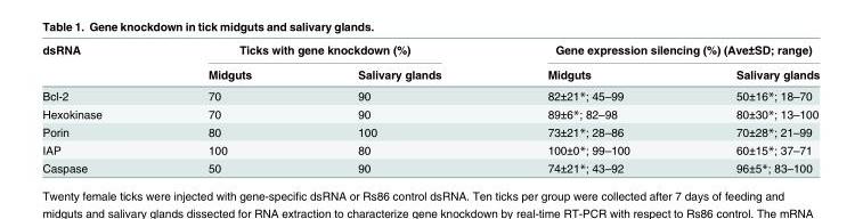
<table><thead><tr><td rowspan="2">dsRNA</td><td colspan="2">Ticks with gene knockdown (%)</td><td colspan="2">Gene expression silencing (%) (Ave±SD; range)</td></tr><tr><td>Midguts</td><td>Salivary glands</td><td>Midguts</td><td>Salivary glands</td></tr></thead><tbody><tr><td>Bcl-2</td><td>70</td><td>90</td><td>82±21*; 45–99</td><td>50±16*; 18–70</td></tr><tr><td>Hexokinase</td><td>70</td><td>90</td><td>89±6*; 82–98</td><td>80±30*; 13–100</td></tr><tr><td>Porin</td><td>80</td><td>100</td><td>73±21*; 28–86</td><td>70±28*; 21–99</td></tr><tr><td>IAP</td><td>100</td><td>80</td><td>100±0*; 99–100</td><td>60±15*; 37–71</td></tr><tr><td>Caspase</td><td>50</td><td>90</td><td>74±21*; 43–92</td><td>96±5*; 83–100</td></tr></tbody></table>